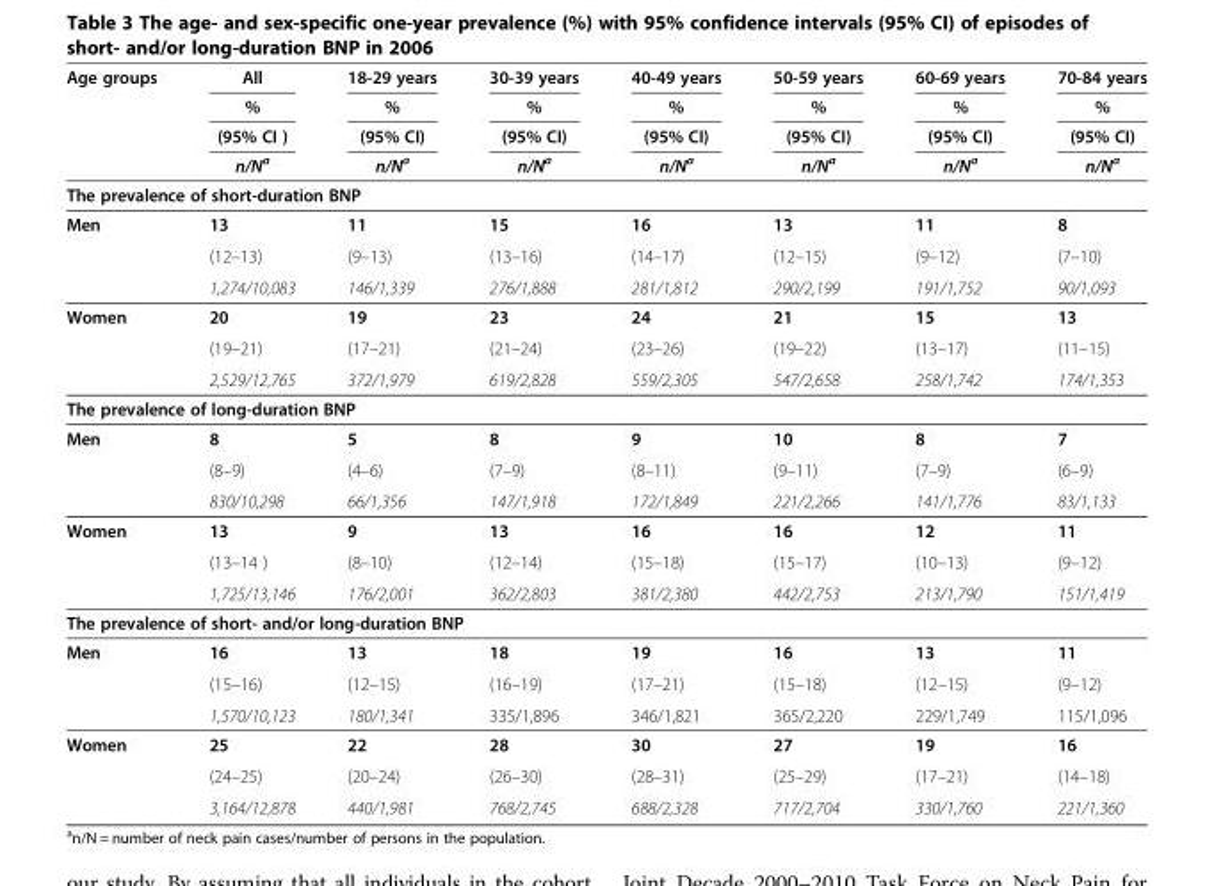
<table><thead><tr><td rowspan="4">Age groups</td><td rowspan="4">All % (95% CI ) n/N<sup>a</sup></td><td rowspan="4">18-29 years % (95% CI) n/N<sup>a</sup></td><td rowspan="4">30-39 years % (95% CI) n/N<sup>a</sup></td><td rowspan="4">40-49 years % (95% CI) n/N<sup>a</sup></td><td rowspan="4">50-59 years % (95% CI) n/N<sup>a</sup></td><td rowspan="4">60-69 years % (95% CI) n/N<sup>a</sup></td><td rowspan="4">70-84 years % (95% CI) n/N<sup>a</sup></td></tr><tr></tr><tr></tr><tr></tr></thead><tbody><tr><td colspan="8">The prevalence of short-duration BNP</td></tr><tr><td rowspan="3">Men</td><td>13</td><td>11</td><td>15</td><td>16</td><td>13</td><td>11</td><td>8</td></tr><tr><td>(12–13)</td><td>(9–13)</td><td>(13–16)</td><td>(14–17)</td><td>(12–15)</td><td>(9–12)</td><td>(7–10)</td></tr><tr><td>1,274/10,083</td><td>146/1,339</td><td>276/1,888</td><td>281/1,812</td><td>290/2,199</td><td>191/1,752</td><td>90/1,093</td></tr><tr><td rowspan="3">Women</td><td>20</td><td>19</td><td>23</td><td>24</td><td>21</td><td>15</td><td>13</td></tr><tr><td>(19–21)</td><td>(17–21)</td><td>(21–24)</td><td>(23–26)</td><td>(19–22)</td><td>(13–17)</td><td>(11–15)</td></tr><tr><td>2,529/12,765</td><td>372/1,979</td><td>619/2,828</td><td>559/2,305</td><td>547/2,658</td><td>258/1,742</td><td>174/1,353</td></tr><tr><td colspan="8">The prevalence of long-duration BNP</td></tr><tr><td rowspan="3">Men</td><td>8</td><td>5</td><td>8</td><td>9</td><td>10</td><td>8</td><td>7</td></tr><tr><td>(8–9)</td><td>(4–6)</td><td>(7–9)</td><td>(8–11)</td><td>(9–11)</td><td>(7–9)</td><td>(6–9)</td></tr><tr><td>830/10,298</td><td>66/1,356</td><td>147/1,918</td><td>172/1,849</td><td>221/2,266</td><td>141/1,776</td><td>83/1,133</td></tr><tr><td rowspan="3">Women</td><td>13</td><td>9</td><td>13</td><td>16</td><td>16</td><td>12</td><td>11</td></tr><tr><td>(13–14 )</td><td>(8–10)</td><td>(12–14)</td><td>(15–18)</td><td>(15–17)</td><td>(10–13)</td><td>(9–12)</td></tr><tr><td>1,725/13,146</td><td>176/2,001</td><td>362/2,803</td><td>381/2,380</td><td>442/2,753</td><td>213/1,790</td><td>151/1,419</td></tr><tr><td colspan="8">The prevalence of short- and/or long-duration BNP</td></tr><tr><td rowspan="3">Men</td><td>16</td><td>13</td><td>18</td><td>19</td><td>16</td><td>13</td><td>11</td></tr><tr><td>(15–16)</td><td>(12–15)</td><td>(16–19)</td><td>(17–21)</td><td>(15–18)</td><td>(12–15)</td><td>(9–12)</td></tr><tr><td>1,570/10,123</td><td>180/1,341</td><td>335/1,896</td><td>346/1,821</td><td>365/2,220</td><td>229/1,749</td><td>115/1,096</td></tr><tr><td rowspan="3">Women</td><td>25</td><td>22</td><td>28</td><td>30</td><td>27</td><td>19</td><td>16</td></tr><tr><td>(24–25)</td><td>(20–24)</td><td>(26–30)</td><td>(28–31)</td><td>(25–29)</td><td>(17–21)</td><td>(14–18)</td></tr><tr><td>3,164/12,878</td><td>440/1,981</td><td>768/2,745</td><td>688/2,328</td><td>717/2,704</td><td>330/1,760</td><td>221/1,360</td></tr></tbody></table>